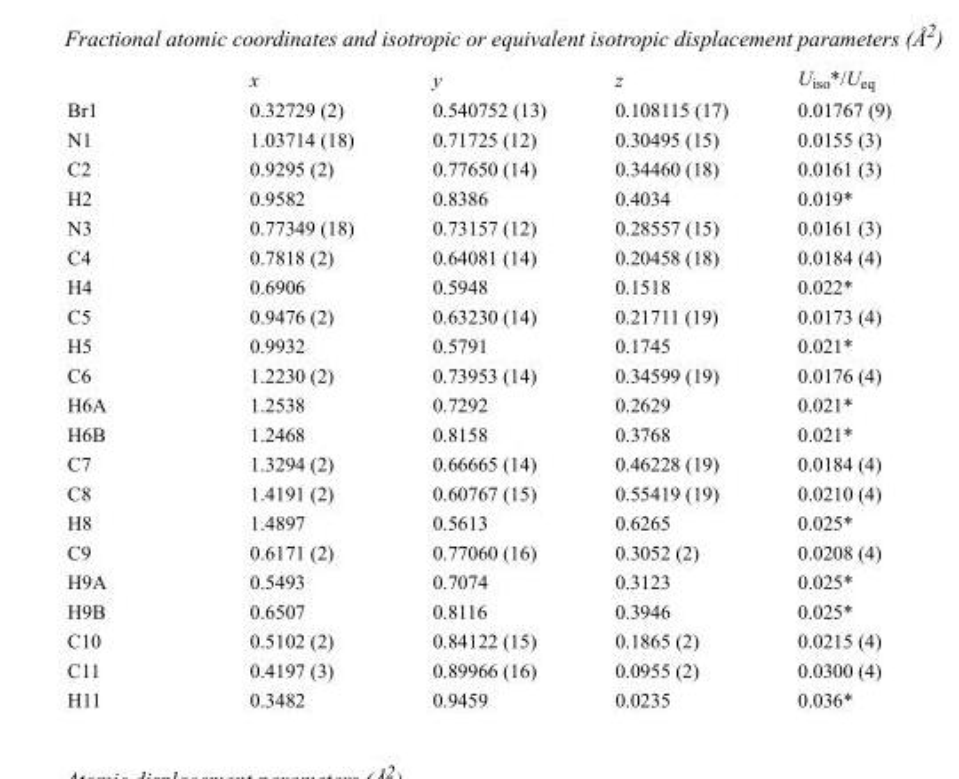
<table><thead><tr><td></td><td>x</td><td>y</td><td>z</td><td>U<sub>iso</sub>*/U<sub>eq</sub></td></tr></thead><tbody><tr><td>Br1</td><td>0.32729 (2)</td><td>0.540752 (13)</td><td>0.108115 (17)</td><td>0.01767 (9)</td></tr><tr><td>N1</td><td>1.03714 (18)</td><td>0.71725 (12)</td><td>0.30495 (15)</td><td>0.0155 (3)</td></tr><tr><td>C2</td><td>0.9295 (2)</td><td>0.77650 (14)</td><td>0.34460 (18)</td><td>0.0161 (3)</td></tr><tr><td>H2</td><td>0.9582</td><td>0.8386</td><td>0.4034</td><td>0.019*</td></tr><tr><td>N3</td><td>0.77349 (18)</td><td>0.73157 (12)</td><td>0.28557 (15)</td><td>0.0161 (3)</td></tr><tr><td>C4</td><td>0.7818 (2)</td><td>0.64081 (14)</td><td>0.20458 (18)</td><td>0.0184 (4)</td></tr><tr><td>H4</td><td>0.6906</td><td>0.5948</td><td>0.1518</td><td>0.022*</td></tr><tr><td>C5</td><td>0.9476 (2)</td><td>0.63230 (14)</td><td>0.21711 (19)</td><td>0.0173 (4)</td></tr><tr><td>H5</td><td>0.9932</td><td>0.5791</td><td>0.1745</td><td>0.021*</td></tr><tr><td>C6</td><td>1.2230 (2)</td><td>0.73953 (14)</td><td>0.34599 (19)</td><td>0.0176 (4)</td></tr><tr><td>H6A</td><td>1.2538</td><td>0.7292</td><td>0.2629</td><td>0.021*</td></tr><tr><td>H6B</td><td>1.2468</td><td>0.8158</td><td>0.3768</td><td>0.021*</td></tr><tr><td>C7</td><td>1.3294 (2)</td><td>0.66665 (14)</td><td>0.46228 (19)</td><td>0.0184 (4)</td></tr><tr><td>C8</td><td>1.4191 (2)</td><td>0.60767 (15)</td><td>0.55419 (19)</td><td>0.0210 (4)</td></tr><tr><td>H8</td><td>1.4897</td><td>0.5613</td><td>0.6265</td><td>0.025*</td></tr><tr><td>C9</td><td>0.6171 (2)</td><td>0.77060 (16)</td><td>0.3052 (2)</td><td>0.0208 (4)</td></tr><tr><td>H9A</td><td>0.5493</td><td>0.7074</td><td>0.3123</td><td>0.025*</td></tr><tr><td>H9B</td><td>0.6507</td><td>0.8116</td><td>0.3946</td><td>0.025*</td></tr><tr><td>C10</td><td>0.5102 (2)</td><td>0.84122 (15)</td><td>0.1865 (2)</td><td>0.0215 (4)</td></tr><tr><td>C11</td><td>0.4197 (3)</td><td>0.89966 (16)</td><td>0.0955 (2)</td><td>0.0300 (4)</td></tr><tr><td>H11</td><td>0.3482</td><td>0.9459</td><td>0.0235</td><td>0.036*</td></tr></tbody></table>